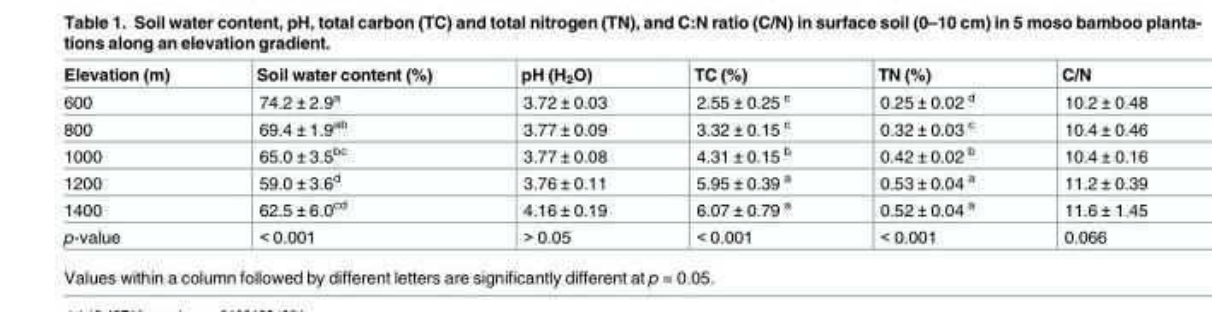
<table><thead><tr><td>Elevation (m)</td><td>Soil water content (%)</td><td>pH (H<sub>2</sub>O)</td><td>TC (%)</td><td>TN (%)</td><td>C/N</td></tr></thead><tbody><tr><td>600</td><td>74.2 ± 2.9<sup>a</sup></td><td>3.72 ± 0.03</td><td>2.55 ± 0.25 <sup>c</sup></td><td>0.25 ± 0.02 <sup>d</sup></td><td>10.2 ± 0.48</td></tr><tr><td>800</td><td>69.4 ± 1.9<sup>ab</sup></td><td>3.77 ± 0.09</td><td>3.32 ± 0.15 <sup>c</sup></td><td>0.32 ± 0.03 <sup>c</sup></td><td>10.4 ± 0.46</td></tr><tr><td>1000</td><td>65.0 ± 3.5<sup>bc</sup></td><td>3.77 ± 0.08</td><td>4.31 ± 0.15 <sup>b</sup></td><td>0.42 ± 0.02 <sup>b</sup></td><td>10.4 ± 0.16</td></tr><tr><td>1200</td><td>59.0 ± 3.6<sup>d</sup></td><td>3.76 ± 0.11</td><td>5.95 ± 0.39 <sup>a</sup></td><td>0.53 ± 0.04 <sup>a</sup></td><td>11.2 ± 0.39</td></tr><tr><td>1400</td><td>62.5 ± 6.0<sup>cd</sup></td><td>4.16 ± 0.19</td><td>6.07 ± 0.79 <sup>a</sup></td><td>0.52 ± 0.04 <sup>a</sup></td><td>11.6 ± 1.45</td></tr><tr><td>p-value</td><td>&lt; 0.001</td><td>&gt; 0.05</td><td>&lt; 0.001</td><td>&lt; 0.001</td><td>0.066</td></tr></tbody></table>